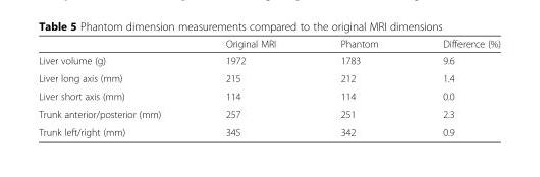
<table><thead><tr><td></td><td>Original MRI</td><td>Phantom</td><td>Difference (%)</td></tr></thead><tbody><tr><td>Liver volume (g)</td><td>1972</td><td>1783</td><td>9.6</td></tr><tr><td>Liver long axis (mm)</td><td>215</td><td>212</td><td>1.4</td></tr><tr><td>Liver short axis (mm)</td><td>114</td><td>114</td><td>0.0</td></tr><tr><td>Trunk anterior/posterior (mm)</td><td>257</td><td>251</td><td>2.3</td></tr><tr><td>Trunk left/right (mm)</td><td>345</td><td>342</td><td>0.9</td></tr></tbody></table>